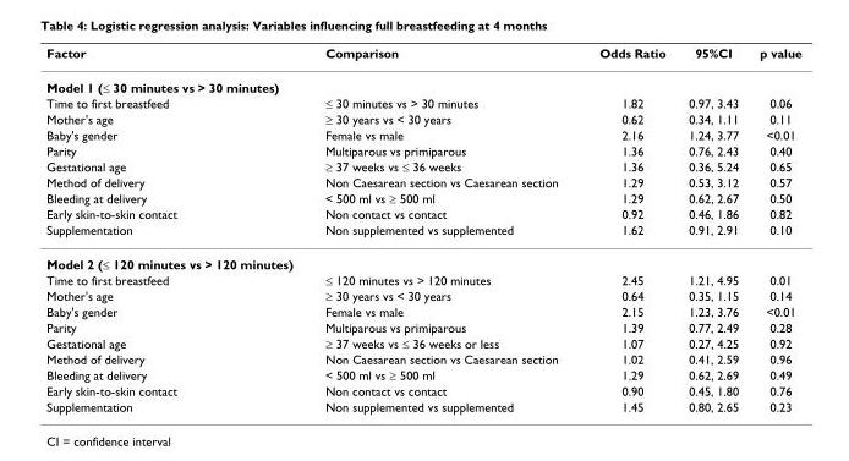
<table><thead><tr><td>Factor</td><td>Comparison</td><td>Odds Ratio</td><td>95%CI</td><td>p value</td></tr></thead><tbody><tr><td colspan="5">Model 1 (≤ 30 minutes vs &gt; 30 minutes)</td></tr><tr><td>Time to first breastfeed</td><td>≤ 30 minutes vs &gt; 30 minutes</td><td>1.82</td><td>0.97, 3.43</td><td>0.06</td></tr><tr><td>Mother&#x27;s age</td><td>≥ 30 years vs &lt; 30 years</td><td>0.62</td><td>0.34, 1.11</td><td>0.11</td></tr><tr><td>Baby&#x27;s gender</td><td>Female vs male</td><td>2.16</td><td>1.24, 3.77</td><td>&lt;0.01</td></tr><tr><td>Parity</td><td>Multiparous vs primiparous</td><td>1.36</td><td>0.76, 2.43</td><td>0.40</td></tr><tr><td>Gestational age</td><td>≥ 37 weeks vs ≤ 36 weeks</td><td>1.36</td><td>0.36, 5.24</td><td>0.65</td></tr><tr><td>Method of delivery</td><td>Non Caesarean section vs Caesarean section</td><td>1.29</td><td>0.53, 3.12</td><td>0.57</td></tr><tr><td>Bleeding at delivery</td><td>&lt; 500 ml vs ≥ 500 ml</td><td>1.29</td><td>0.62, 2.67</td><td>0.50</td></tr><tr><td>Early skin-to-skin contact</td><td>Non contact vs contact</td><td>0.92</td><td>0.46, 1.86</td><td>0.82</td></tr><tr><td>Supplementation</td><td>Non supplemented vs supplemented</td><td>1.62</td><td>0.91, 2.91</td><td>0.10</td></tr><tr><td colspan="5">Model 2 (≤ 120 minutes vs &gt; 120 minutes)</td></tr><tr><td>Time to first breastfeed</td><td>≤ 120 minutes vs &gt; 120 minutes</td><td>2.45</td><td>1.21, 4.95</td><td>0.01</td></tr><tr><td>Mother&#x27;s age</td><td>≥ 30 years vs &lt; 30 years</td><td>0.64</td><td>0.35, 1.15</td><td>0.14</td></tr><tr><td>Baby&#x27;s gender</td><td>Female vs male</td><td>2.15</td><td>1.23, 3.76</td><td>&lt;0.01</td></tr><tr><td>Parity</td><td>Multiparous vs primiparous</td><td>1.39</td><td>0.77, 2.49</td><td>0.28</td></tr><tr><td>Gestational age</td><td>≥ 37 weeks vs ≤ 36 weeks or less</td><td>1.07</td><td>0.27, 4.25</td><td>0.92</td></tr><tr><td>Method of delivery</td><td>Non Caesarean section vs Caesarean section</td><td>1.02</td><td>0.41, 2.59</td><td>0.96</td></tr><tr><td>Bleeding at delivery</td><td>&lt; 500 ml vs ≥ 500 ml</td><td>1.29</td><td>0.62, 2.69</td><td>0.49</td></tr><tr><td>Early skin-to-skin contact</td><td>Non contact vs contact</td><td>0.90</td><td>0.45, 1.80</td><td>0.76</td></tr><tr><td>Supplementation</td><td>Non supplemented vs supplemented</td><td>1.45</td><td>0.80, 2.65</td><td>0.23</td></tr></tbody></table>